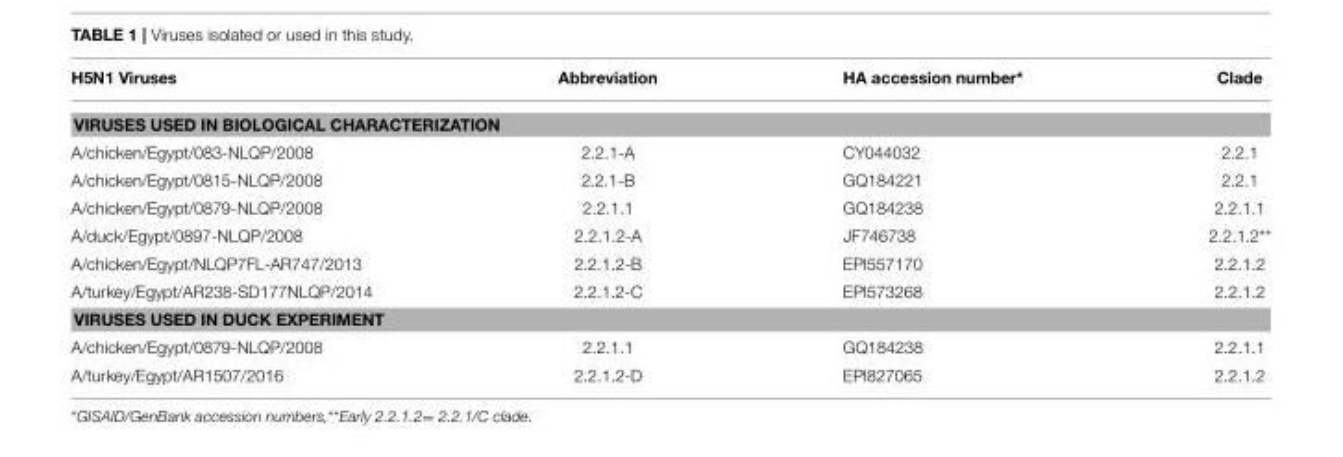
<table><thead><tr><td>H5N1 Viruses</td><td>Abbreviation</td><td>HA accession number*</td><td>Clade</td></tr></thead><tbody><tr><td colspan="4">VIRUSES USED IN BIOLOGICAL CHARACTERIZATION</td></tr><tr><td>A/chicken/Egypt/083-NLQP/2008</td><td>2.2.1-A</td><td>CY044032</td><td>2.2.1</td></tr><tr><td>A/chicken/Egypt/0815-NLQP/2008</td><td>2.2.1-B</td><td>GQ184221</td><td>2.2.1</td></tr><tr><td>A/chicken/Egypt/0879-NLQP/2008</td><td>2.2.1.1</td><td>GQ184238</td><td>2.2.1.1</td></tr><tr><td>A/duck/Egypt/0897-NLQP/2008</td><td>2.2.1.2-A</td><td>JF746738</td><td>2.2.1.2**</td></tr><tr><td>A/chicken/Egypt/NLQP7FL-AR747/2013</td><td>2.2.1.2-B</td><td>EPI557170</td><td>2.2.1.2</td></tr><tr><td>A/turkey/Egypt/AR238-SD177NLQP/2014</td><td>2.2.1.2-C</td><td>EPI573268</td><td>2.2.1.2</td></tr><tr><td colspan="4">VIRUSES USED IN DUCK EXPERIMENT</td></tr><tr><td>A/chicken/Egypt/0879-NLQP/2008</td><td>2.2.1.1</td><td>GQ184238</td><td>2.2.1.1</td></tr><tr><td>A/turkey/Egypt/AR1507/2016</td><td>2.2.1.2-D</td><td>EPI827065</td><td>2.2.1.2</td></tr></tbody></table>